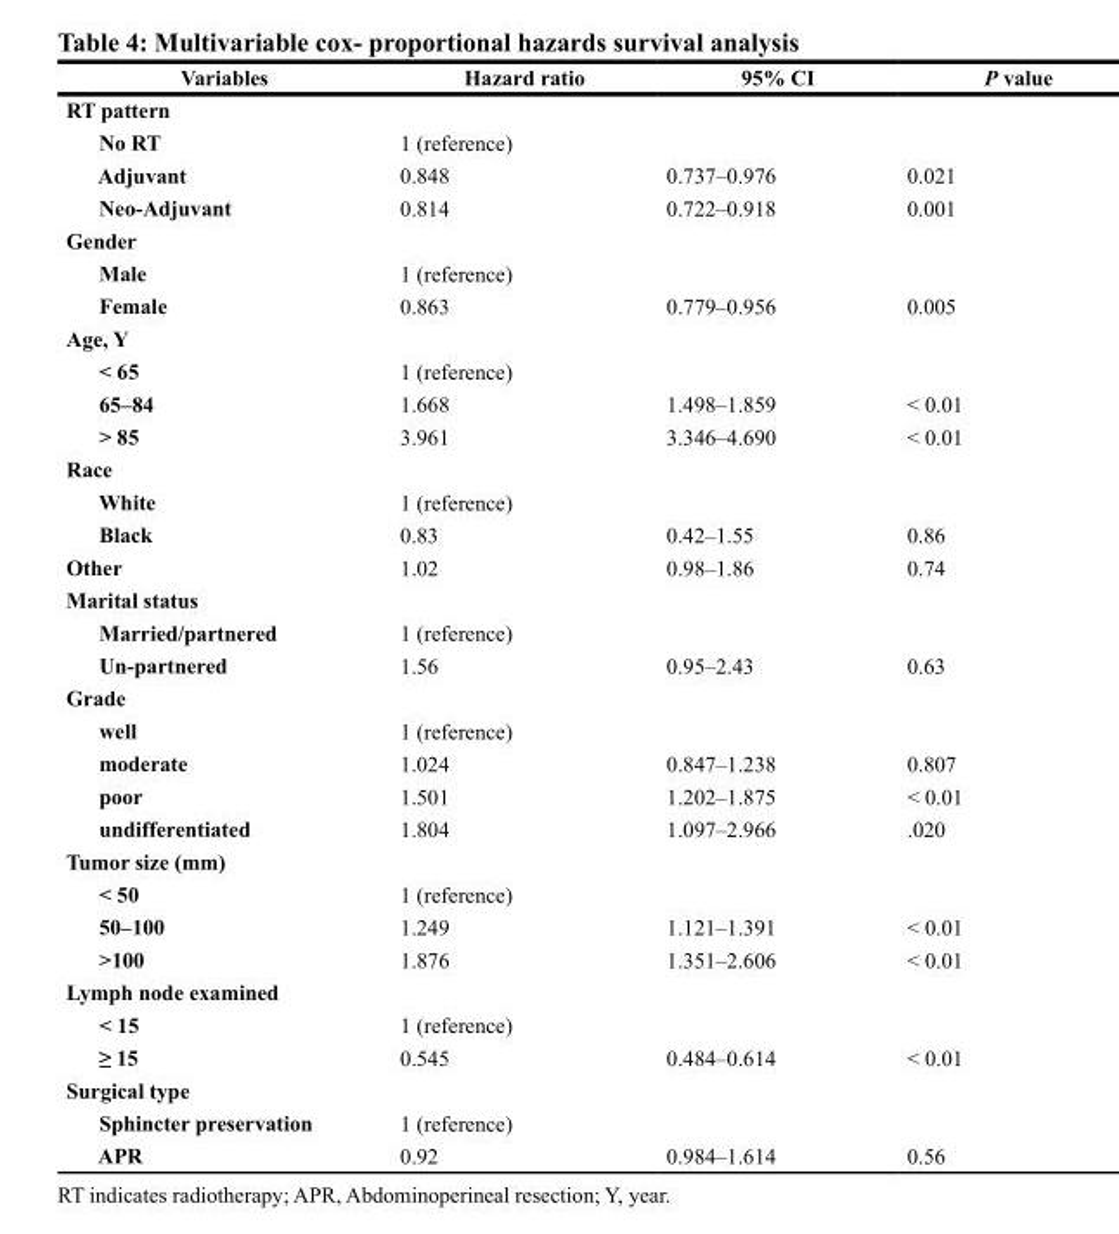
<table><thead><tr><td>Variables</td><td>Hazard ratio</td><td>95% CI</td><td>P value</td></tr></thead><tbody><tr><td colspan="4">RT pattern</td></tr><tr><td>No RT</td><td>1 (reference)</td><td></td><td></td></tr><tr><td>Adjuvant</td><td>0.848</td><td>0.737–0.976</td><td>0.021</td></tr><tr><td>Neo-Adjuvant</td><td>0.814</td><td>0.722–0.918</td><td>0.001</td></tr><tr><td colspan="4">Gender</td></tr><tr><td>Male</td><td>1 (reference)</td><td></td><td></td></tr><tr><td>Female</td><td>0.863</td><td>0.779–0.956</td><td>0.005</td></tr><tr><td colspan="4">Age, Y</td></tr><tr><td>&lt; 65</td><td>1 (reference)</td><td></td><td></td></tr><tr><td>65–84</td><td>1.668</td><td>1.498–1.859</td><td>&lt; 0.01</td></tr><tr><td>&gt; 85</td><td>3.961</td><td>3.346–4.690</td><td>&lt; 0.01</td></tr><tr><td colspan="4">Race</td></tr><tr><td>White</td><td>1 (reference)</td><td></td><td></td></tr><tr><td>Black</td><td>0.83</td><td>0.42–1.55</td><td>0.86</td></tr><tr><td>Other</td><td>1.02</td><td>0.98–1.86</td><td>0.74</td></tr><tr><td colspan="4">Marital status</td></tr><tr><td>Married/partnered</td><td>1 (reference)</td><td></td><td></td></tr><tr><td>Un-partnered</td><td>1.56</td><td>0.95–2.43</td><td>0.63</td></tr><tr><td colspan="4">Grade</td></tr><tr><td>well</td><td>1 (reference)</td><td></td><td></td></tr><tr><td>moderate</td><td>1.024</td><td>0.847–1.238</td><td>0.807</td></tr><tr><td>poor</td><td>1.501</td><td>1.202–1.875</td><td>&lt; 0.01</td></tr><tr><td>undifferentiated</td><td>1.804</td><td>1.097–2.966</td><td>.020</td></tr><tr><td colspan="4">Tumor size (mm)</td></tr><tr><td>&lt; 50</td><td>1 (reference)</td><td></td><td></td></tr><tr><td>50–100</td><td>1.249</td><td>1.121–1.391</td><td>&lt; 0.01</td></tr><tr><td>&gt;100</td><td>1.876</td><td>1.351–2.606</td><td>&lt; 0.01</td></tr><tr><td colspan="4">Lymph node examined</td></tr><tr><td>&lt; 15</td><td>1 (reference)</td><td></td><td></td></tr><tr><td>≥ 15</td><td>0.545</td><td>0.484–0.614</td><td>&lt; 0.01</td></tr><tr><td colspan="4">Surgical type</td></tr><tr><td>Sphincter preservation</td><td>1 (reference)</td><td></td><td></td></tr><tr><td>APR</td><td>0.92</td><td>0.984–1.614</td><td>0.56</td></tr></tbody></table>